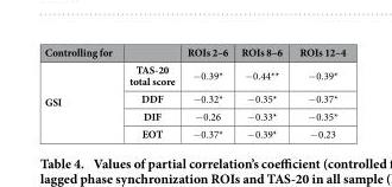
<table><thead><tr><td>Controlling for</td><td></td><td>ROIs 2–6</td><td>ROIs 8–6</td><td>ROIs 12–4</td></tr></thead><tbody><tr><td rowspan="4">GSI</td><td>TAS-20 total score</td><td>− 0.39*</td><td>− 0.44**</td><td>− 0.39*</td></tr><tr><td>DDF</td><td>− 0.32*</td><td>− 0.35*</td><td>− 0.37*</td></tr><tr><td>DIF</td><td>− 0.26</td><td>− 0.33*</td><td>− 0.35*</td></tr><tr><td>EOT</td><td>− 0.37*</td><td>− 0.39*</td><td>− 0.23</td></tr></tbody></table>